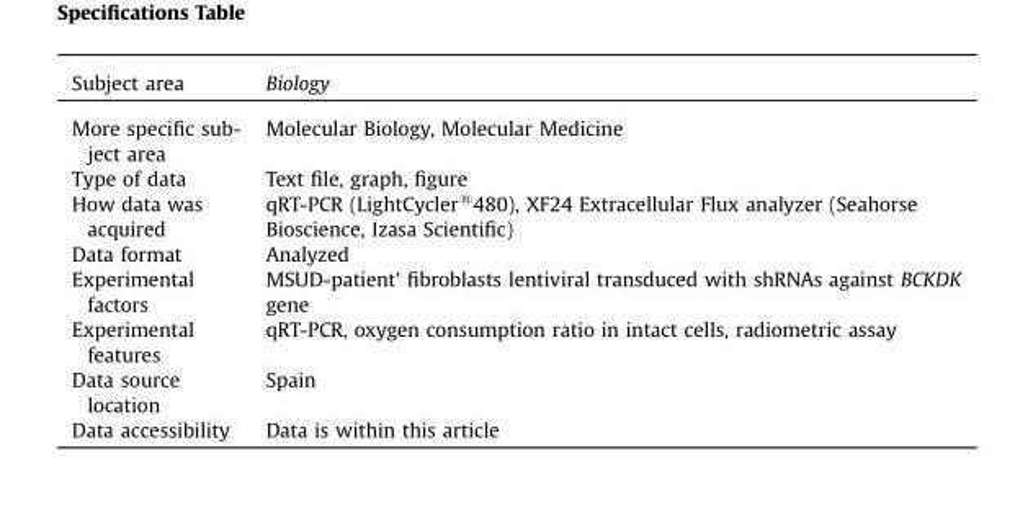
<table><thead><tr><td>Subject area</td><td>Biology</td></tr></thead><tbody><tr><td>More specific sub- ject area</td><td>Molecular Biology, Molecular Medicine</td></tr><tr><td>Type of data</td><td>Text file, graph, figure</td></tr><tr><td>How data was acquired</td><td>qRT-PCR (LightCycler®480), XF24 Extracellular Flux analyzer (Seahorse Bioscience, Izasa Scientific)</td></tr><tr><td>Data format</td><td>Analyzed</td></tr><tr><td>Experimental factors</td><td>MSUD-patient’ fibroblasts lentiviral transduced with shRNAs against BCKDK gene</td></tr><tr><td>Experimental features</td><td>qRT-PCR, oxygen consumption ratio in intact cells, radiometric assay</td></tr><tr><td>Data source location</td><td>Spain</td></tr><tr><td>Data accessibility</td><td>Data is within this article</td></tr></tbody></table>